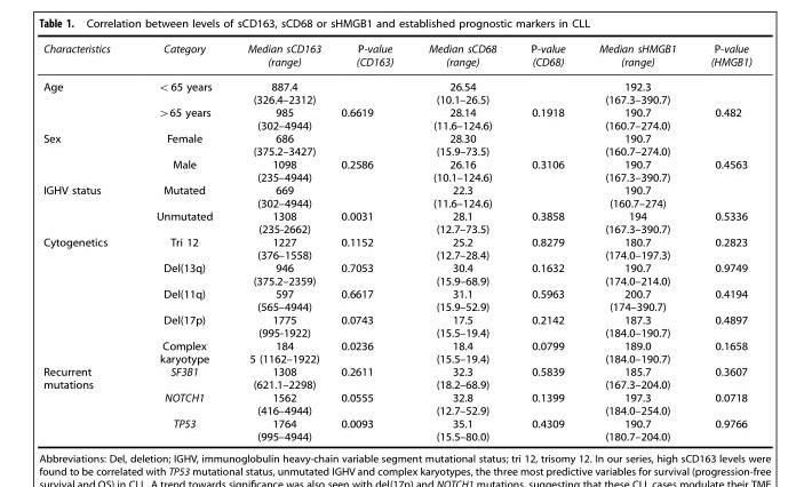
<table><thead><tr><td>Characteristics</td><td>Category</td><td>Median sCD163 (range)</td><td>P-value (CD163)</td><td>Median sCD68 (range)</td><td>P-value (CD68)</td><td>Median sHMGB1 (range)</td><td>P-value (HMGB1)</td></tr></thead><tbody><tr><td rowspan="2">Age</td><td>&lt;65 years</td><td>887.4 (326.4–2312)</td><td></td><td>26.54 (10.1–26.5)</td><td></td><td>192.3 (167.3–390.7)</td><td></td></tr><tr><td>&gt;65 years</td><td>985 (302–4944)</td><td>0.6619</td><td>28.14 (11.6–124.6)</td><td>0.1918</td><td>190.7 (160.7–274.0)</td><td>0.482</td></tr><tr><td rowspan="2">Sex</td><td>Female</td><td>686 (375.2–3427)</td><td></td><td>28.30 (15.9–73.5)</td><td></td><td>190.7 (160.7–274.0)</td><td></td></tr><tr><td>Male</td><td>1098 (235–4944)</td><td>0.2586</td><td>26.16 (10.1–124.6)</td><td>0.3106</td><td>190.7 (167.3–390.7)</td><td>0.4563</td></tr><tr><td rowspan="2">IGHV status</td><td>Mutated</td><td>669 (302–4944)</td><td></td><td>22.3 (11.6–124.6)</td><td></td><td>190.7 (160.7–274)</td><td></td></tr><tr><td>Unmutated</td><td>1308 (235-2662)</td><td>0.0031</td><td>28.1 (12.7–73.5)</td><td>0.3858</td><td>194 (167.3–390.7)</td><td>0.5336</td></tr><tr><td rowspan="5">Cytogenetics</td><td>Tri 12</td><td>1227 (376–1558)</td><td>0.1152</td><td>25.2 (12.7–28.4)</td><td>0.8279</td><td>180.7 (174.0–197.3)</td><td>0.2823</td></tr><tr><td>Del(13q)</td><td>946 (375.2–2359)</td><td>0.7053</td><td>30.4 (15.9–68.9)</td><td>0.1632</td><td>190.7 (174.0–214.0)</td><td>0.9749</td></tr><tr><td>Del(11q)</td><td>597 (565–4944)</td><td>0.6617</td><td>31.1 (15.9–52.9)</td><td>0.5963</td><td>200.7 (174–390.7)</td><td>0.4194</td></tr><tr><td>Del(17p)</td><td>1775 (995-1922)</td><td>0.0743</td><td>17.5 (15.5–19.4)</td><td>0.2142</td><td>187.3 (184.0–190.7)</td><td>0.4897</td></tr><tr><td>Complex karyotype</td><td>184 5 (1162–1922)</td><td>0.0236</td><td>18.4 (15.5–19.4)</td><td>0.0799</td><td>189.0 (184.0–190.7)</td><td>0.1658</td></tr><tr><td rowspan="3">Recurrent mutations</td><td>SF3B1</td><td>1308 (621.1–2298)</td><td>0.2611</td><td>32.3 (18.2–68.9)</td><td>0.5839</td><td>185.7 (167.3–204.0)</td><td>0.3607</td></tr><tr><td>NOTCH1</td><td>1562 (416–4944)</td><td>0.0555</td><td>32.8 (12.7–52.9)</td><td>0.1399</td><td>197.3 (184.0–254.0)</td><td>0.0718</td></tr><tr><td>TP53</td><td>1764 (995–4944)</td><td>0.0093</td><td>35.1 (15.5–80.0)</td><td>0.4309</td><td>190.7 (180.7–204.0)</td><td>0.9766</td></tr></tbody></table>